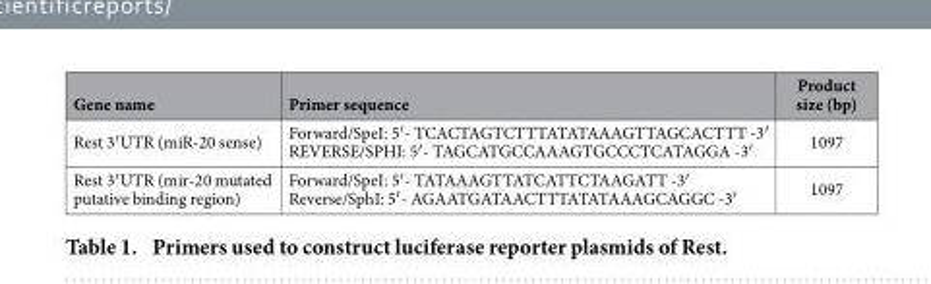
<table><thead><tr><td>Gene name</td><td>Primer sequence</td><td>Product size (bp)</td></tr></thead><tbody><tr><td>Rest 3′ UTR (miR-20 sense)</td><td>Forward/SpeI: 5′ - TCACTAGTCTTTATATAAAGTTAGCACTTT -3′ REVERSE/SPHI: 5′ - TAGCATGCCAAAGTGCCCTCATAGGA -3′</td><td>1097</td></tr><tr><td>Rest 3′ UTR (mir-20 mutated putative binding region)</td><td>Forward/SpeI: 5′ - TATAAAGTTATCATTCTAAGATT -3′ Reverse/SphI: 5′ - AGAATGATAACTTTATATAAAGCAGGC -3′</td><td>1097</td></tr></tbody></table>